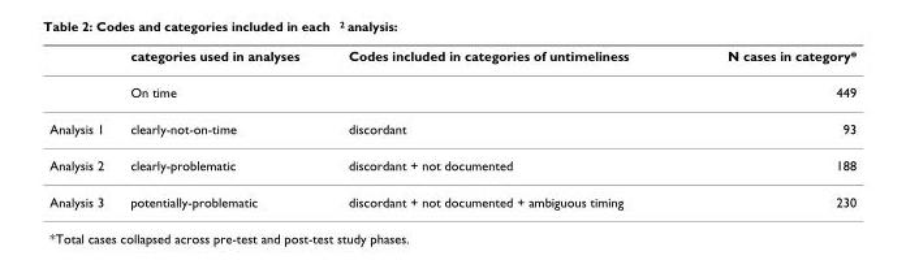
<table><thead><tr><td></td><td>categories used in analyses</td><td>Codes included in categories of untimeliness</td><td>N cases in category*</td></tr></thead><tbody><tr><td></td><td>On time</td><td></td><td>449</td></tr><tr><td>Analysis 1</td><td>clearly-not-on-time</td><td>discordant</td><td>93</td></tr><tr><td>Analysis 2</td><td>clearly-problematic</td><td>discordant + not documented</td><td>188</td></tr><tr><td>Analysis 3</td><td>potentially-problematic</td><td>discordant + not documented + ambiguous timing</td><td>230</td></tr></tbody></table>